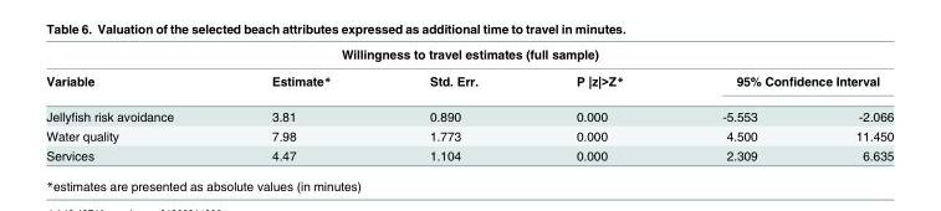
<table><thead><tr><td colspan="6">Willingness to travel estimates (full sample)</td></tr><tr><td rowspan="2">Variable Jellyfish risk avoidance</td><td rowspan="2">Estimate* 3.81</td><td rowspan="2">Std. Err. 0.890</td><td rowspan="2">P |z|&gt;Z* 0.000</td><td colspan="2">95% Confidence Interval</td></tr><tr><td>-5.553</td><td>-2.066</td></tr></thead><tbody><tr><td>Water quality</td><td>7.98</td><td>1.773</td><td>0.000</td><td>4.500</td><td>11.450</td></tr><tr><td>Services</td><td>4.47</td><td>1.104</td><td>0.000</td><td>2.309</td><td>6.635</td></tr></tbody></table>